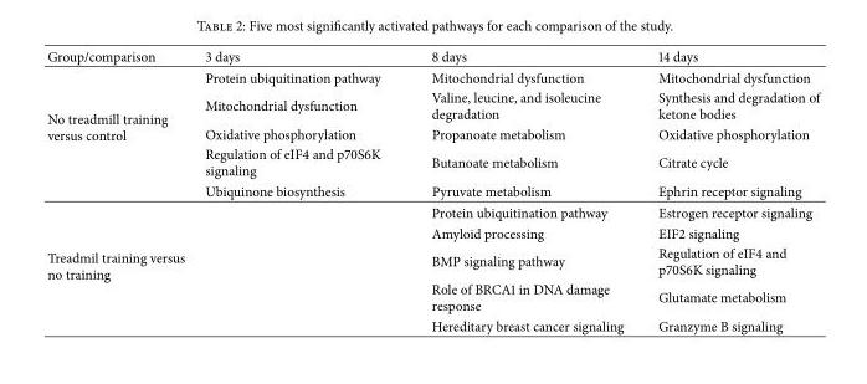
<table><thead><tr><td>Group/comparison</td><td>3 days</td><td>8 days</td><td>14 days</td></tr></thead><tbody><tr><td rowspan="5">No treadmill training versus control</td><td>Protein ubiquitination pathway</td><td>Mitochondrial dysfunction</td><td>Mitochondrial dysfunction</td></tr><tr><td>Mitochondrial dysfunction</td><td>Valine, leucine, and isoleucine degradation</td><td>Synthesis and degradation of ketone bodies</td></tr><tr><td>Oxidative phosphorylation</td><td>Propanoate metabolism</td><td>Oxidative phosphorylation</td></tr><tr><td>Regulation of eIF4 and p70S6K signaling</td><td>Butanoate metabolism</td><td>Citrate cycle</td></tr><tr><td>Ubiquinone biosynthesis</td><td>Pyruvate metabolism</td><td>Ephrin receptor signaling</td></tr><tr><td rowspan="5">Treadmil training versus no training</td><td></td><td>Protein ubiquitination pathway</td><td>Estrogen receptor signaling</td></tr><tr><td></td><td>Amyloid processing</td><td>EIF2 signaling</td></tr><tr><td></td><td>BMP signaling pathway</td><td>Regulation of eIF4 and p70S6K signaling</td></tr><tr><td></td><td>Role of BRCA1 in DNA damage response</td><td>Glutamate metabolism</td></tr><tr><td></td><td>Hereditary breast cancer signaling</td><td>Granzyme B signaling</td></tr></tbody></table>